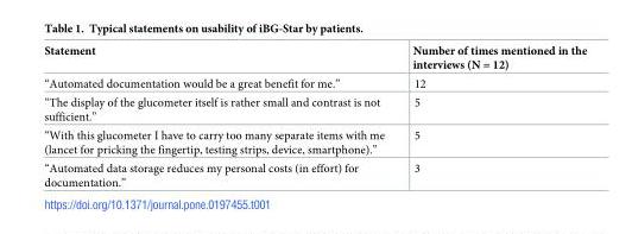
<table><thead><tr><td>Statement</td><td>Number of times mentioned in the interviews (N = 12)</td></tr></thead><tbody><tr><td>“Automated documentation would be a great benefit for me.”</td><td>12</td></tr><tr><td>“The display of the glucometer itself is rather small and contrast is not sufficient.”</td><td>5</td></tr><tr><td>“With this glucometer I have to carry too many separate items with me (lancet for pricking the fingertip, testing strips, device, smartphone).”</td><td>5</td></tr><tr><td>“Automated data storage reduces my personal costs (in effort) for documentation.”</td><td>3</td></tr></tbody></table>